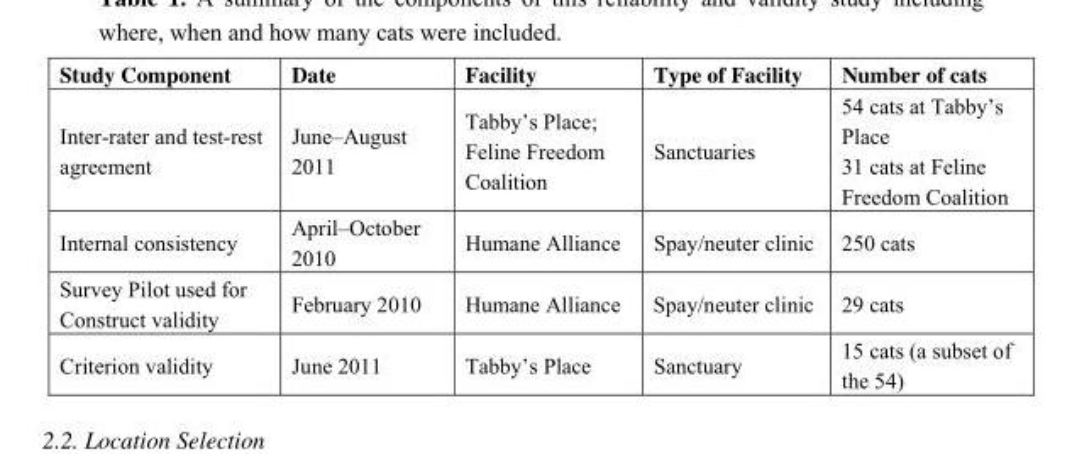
<table><thead><tr><td>Study Component</td><td>Date</td><td>Facility</td><td>Type of Facility</td><td>Number of cats</td></tr></thead><tbody><tr><td>Inter-rater and test-rest agreement</td><td>June–August 2011</td><td>Tabby’s Place; Feline Freedom Coalition</td><td>Sanctuaries</td><td>54 cats at Tabby’s Place 31 cats at Feline Freedom Coalition</td></tr><tr><td>Internal consistency</td><td>April–October 2010</td><td>Humane Alliance</td><td>Spay/neuter clinic</td><td>250 cats</td></tr><tr><td>Survey Pilot used for Construct validity</td><td>February 2010</td><td>Humane Alliance</td><td>Spay/neuter clinic</td><td>29 cats</td></tr><tr><td>Criterion validity</td><td>June 2011</td><td>Tabby’s Place</td><td>Sanctuary</td><td>15 cats (a subset of the 54)</td></tr></tbody></table>